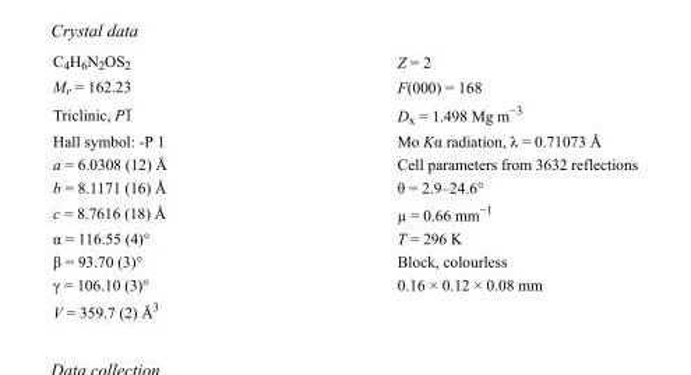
<table><tbody><tr><td>C<sub>4</sub>H<sub>6</sub>N<sub>2</sub>OS<sub>2</sub></td><td>Z = 2</td></tr><tr><td>M<sub>r</sub> = 162.23</td><td>F(000) = 168</td></tr><tr><td>Triclinic, P1</td><td>D<sub>x</sub> = 1.498 Mg m<sup>−3</sup></td></tr><tr><td>Hall symbol: -P 1</td><td>Mo Kα radiation, λ = 0.71073 Å</td></tr><tr><td>a = 6.0308 (12) Å</td><td>Cell parameters from 3632 reflections</td></tr><tr><td>b = 8.1171 (16) Å</td><td>θ = 2.9–24.6°</td></tr><tr><td>c = 8.7616 (18) Å</td><td>µ = 0.66 mm<sup>−1</sup></td></tr><tr><td>α = 116.55 (4)°</td><td>T = 296 K</td></tr><tr><td>β = 93.70 (3)°</td><td>Block, colourless</td></tr><tr><td>γ = 106.10 (3)°</td><td>0.16 × 0.12 × 0.08 mm</td></tr><tr><td>V = 359.7 (2) Å<sup>3</sup></td><td></td></tr></tbody></table>